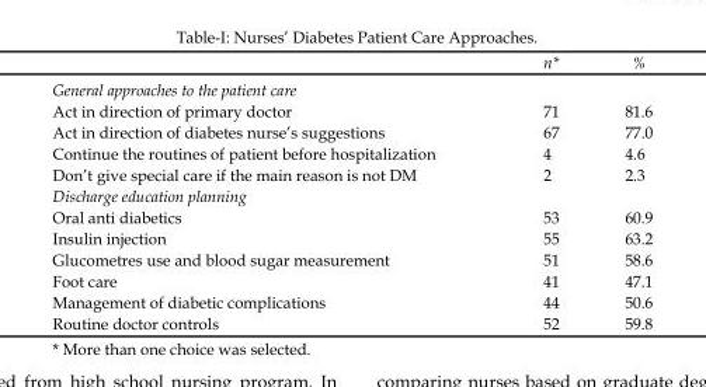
<table><thead><tr><td></td><td>n*</td><td>%</td></tr></thead><tbody><tr><td colspan="3">General approaches to the patient care</td></tr><tr><td>Act in direction of primary doctor</td><td>71</td><td>81.6</td></tr><tr><td>Act in direction of diabetes nurse’s suggestions</td><td>67</td><td>77.0</td></tr><tr><td>Continue the routines of patient before hospitalization</td><td>4</td><td>4.6</td></tr><tr><td>Don’t give special care if the main reason is not DM</td><td>2</td><td>2.3</td></tr><tr><td colspan="3">Discharge education planning</td></tr><tr><td>Oral anti diabetics</td><td>53</td><td>60.9</td></tr><tr><td>Insulin injection</td><td>55</td><td>63.2</td></tr><tr><td>Glucometres use and blood sugar measurement</td><td>51</td><td>58.6</td></tr><tr><td>Foot care</td><td>41</td><td>47.1</td></tr><tr><td>Management of diabetic complications</td><td>44</td><td>50.6</td></tr><tr><td>Routine doctor controls</td><td>52</td><td>59.8</td></tr></tbody></table>